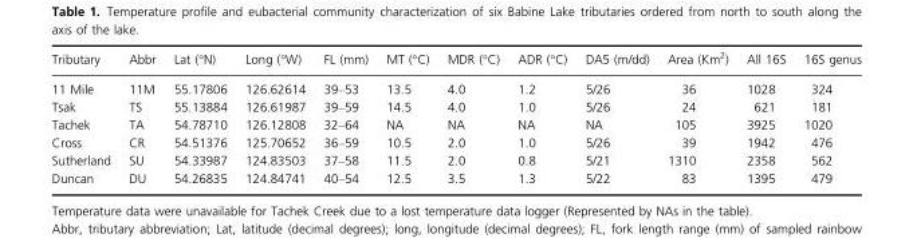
<table><thead><tr><td>Tributary</td><td>Abbr</td><td>Lat (°N)</td><td>Long (°W)</td><td>FL (mm)</td><td>MT (°C)</td><td>MDR (°C)</td><td>ADR (°C)</td><td>DA5 (m/dd)</td><td>Area (Km<sup>2</sup>)</td><td>All 16S</td><td>16S genus</td></tr></thead><tbody><tr><td>11 Mile</td><td>11M</td><td>55.17806</td><td>126.62614</td><td>39–53</td><td>13.5</td><td>4.0</td><td>1.2</td><td>5/26</td><td>36</td><td>1028</td><td>324</td></tr><tr><td>Tsak</td><td>TS</td><td>55.13884</td><td>126.61987</td><td>39–59</td><td>14.5</td><td>4.0</td><td>1.0</td><td>5/26</td><td>24</td><td>621</td><td>181</td></tr><tr><td>Tachek</td><td>TA</td><td>54.78710</td><td>126.12808</td><td>32–64</td><td>NA</td><td>NA</td><td>NA</td><td>NA</td><td>105</td><td>3925</td><td>1020</td></tr><tr><td>Cross</td><td>CR</td><td>54.51376</td><td>125.70652</td><td>36–59</td><td>10.5</td><td>2.0</td><td>1.0</td><td>5/26</td><td>39</td><td>1942</td><td>476</td></tr><tr><td>Sutherland</td><td>SU</td><td>54.33987</td><td>124.83503</td><td>37–58</td><td>11.5</td><td>2.0</td><td>0.8</td><td>5/21</td><td>1310</td><td>2358</td><td>562</td></tr><tr><td>Duncan</td><td>DU</td><td>54.26835</td><td>124.84741</td><td>40–54</td><td>12.5</td><td>3.5</td><td>1.3</td><td>5/22</td><td>83</td><td>1395</td><td>479</td></tr></tbody></table>